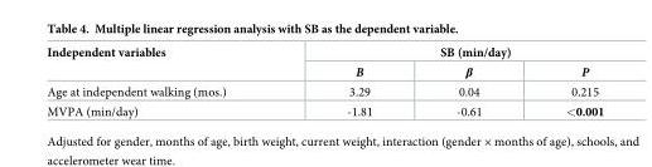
<table><thead><tr><td rowspan="2">Independent variables</td><td colspan="3">SB (min/day)</td></tr><tr><td>B</td><td>β</td><td>P</td></tr></thead><tbody><tr><td>Age at independent walking (mos.)</td><td>3.29</td><td>0.04</td><td>0.215</td></tr><tr><td>MVPA (min/day)</td><td>-1.81</td><td>-0.61</td><td>&lt;0.001</td></tr></tbody></table>